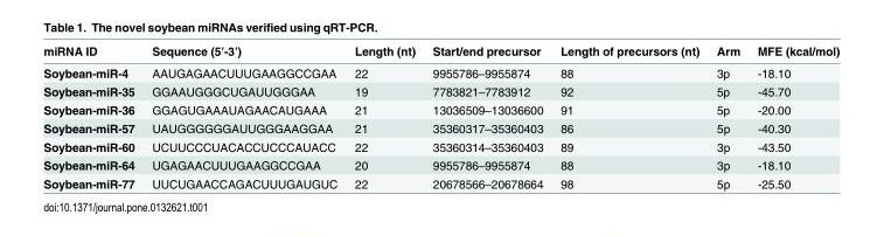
<table><thead><tr><td>miRNA ID</td><td>Sequence (5’-3’)</td><td>Length (nt)</td><td>Start/end precursor</td><td>Length of precursors (nt)</td><td>Arm</td><td>MFE (kcal/mol)</td></tr></thead><tbody><tr><td>Soybean-miR-4</td><td>AAUGAGAACUUUGAAGGCCGAA</td><td>22</td><td>9955786–9955874</td><td>88</td><td>3p</td><td>-18.10</td></tr><tr><td>Soybean-miR-35</td><td>GGAAUGGGCUGAUUGGGAA</td><td>19</td><td>7783821–7783912</td><td>92</td><td>5p</td><td>-45.70</td></tr><tr><td>Soybean-miR-36</td><td>GGAGUGAAAUAGAACAUGAAA</td><td>21</td><td>13036509–13036600</td><td>91</td><td>5p</td><td>-20.00</td></tr><tr><td>Soybean-miR-57</td><td>UAUGGGGGGAUUGGGAAGGAA</td><td>21</td><td>35360317–35360403</td><td>86</td><td>5p</td><td>-40.30</td></tr><tr><td>Soybean-miR-60</td><td>UCUUCCCUACACCUCCCAUACC</td><td>22</td><td>35360314–35360403</td><td>89</td><td>3p</td><td>-43.50</td></tr><tr><td>Soybean-miR-64</td><td>UGAGAACUUUGAAGGCCGAA</td><td>20</td><td>9955786–9955874</td><td>88</td><td>3p</td><td>-18.10</td></tr><tr><td>Soybean-miR-77</td><td>UUCUGAACCAGACUUUGAUGUC</td><td>22</td><td>20678566–20678664</td><td>98</td><td>5p</td><td>-25.50</td></tr></tbody></table>